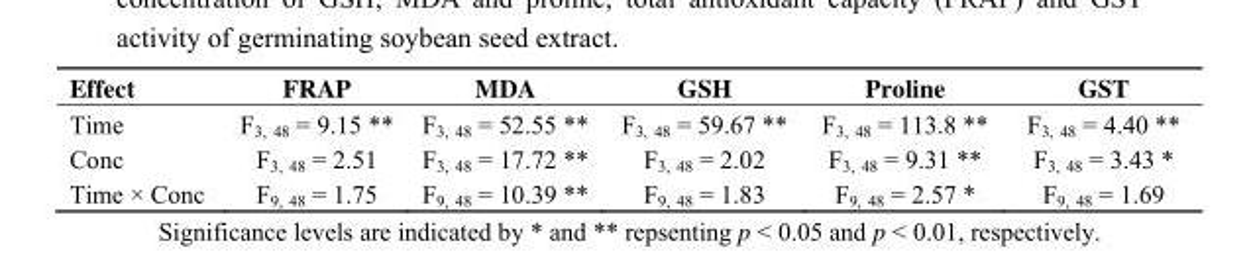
<table><thead><tr><td>Effect</td><td>FRAP</td><td>MDA</td><td>GSH</td><td>Proline</td><td>GST</td></tr></thead><tbody><tr><td>Time</td><td>F<sub>3, 48</sub> = 9.15 **</td><td>F<sub>3, 48</sub> = 52.55 **</td><td>F<sub>3, 48</sub> = 59.67 **</td><td>F<sub>3, 48</sub> = 113.8 **</td><td>F<sub>3, 48</sub> = 4.40 **</td></tr><tr><td>Conc</td><td>F<sub>3, 48</sub> = 2.51</td><td>F<sub>3, 48</sub> = 17.72 **</td><td>F<sub>3, 48</sub> = 2.02</td><td>F<sub>3, 48</sub> = 9.31 **</td><td>F<sub>3, 48</sub> = 3.43 *</td></tr><tr><td>Time × Conc</td><td>F<sub>9, 48</sub> = 1.75</td><td>F<sub>9, 48</sub> = 10.39 **</td><td>F<sub>9, 48</sub> = 1.83</td><td>F<sub>9, 48</sub> = 2.57 *</td><td>F<sub>9, 48</sub> = 1.69</td></tr></tbody></table>